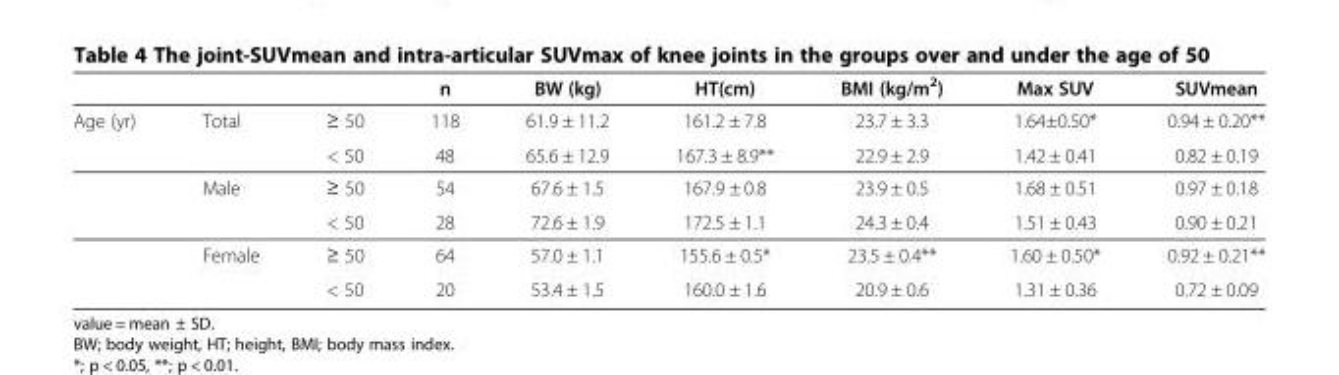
<table><thead><tr><td></td><td></td><td></td><td>n</td><td>BW (kg)</td><td>HT(cm)</td><td>BMI (kg/m<sup>2</sup>)</td><td>Max SUV</td><td>SUVmean</td></tr></thead><tbody><tr><td rowspan="6">Age (yr)</td><td>Total</td><td>≥ 50</td><td>118</td><td>61.9 ± 11.2</td><td>161.2 ± 7.8</td><td>23.7 ± 3.3</td><td>1.64±0.50*</td><td>0.94 ± 0.20**</td></tr><tr><td></td><td>&lt; 50</td><td>48</td><td>65.6 ± 12.9</td><td>167.3 ± 8.9**</td><td>22.9 ± 2.9</td><td>1.42 ± 0.41</td><td>0.82 ± 0.19</td></tr><tr><td>Male</td><td>≥ 50</td><td>54</td><td>67.6 ± 1.5</td><td>167.9 ± 0.8</td><td>23.9 ± 0.5</td><td>1.68 ± 0.51</td><td>0.97 ± 0.18</td></tr><tr><td></td><td>&lt; 50</td><td>28</td><td>72.6 ± 1.9</td><td>172.5 ± 1.1</td><td>24.3 ± 0.4</td><td>1.51 ± 0.43</td><td>0.90 ± 0.21</td></tr><tr><td>Female</td><td>≥ 50</td><td>64</td><td>57.0 ± 1.1</td><td>155.6 ± 0.5*</td><td>23.5 ± 0.4**</td><td>1.60 ± 0.50*</td><td>0.92 ± 0.21**</td></tr><tr><td></td><td>&lt; 50</td><td>20</td><td>53.4 ± 1.5</td><td>160.0 ± 1.6</td><td>20.9 ± 0.6</td><td>1.31 ± 0.36</td><td>0.72 ± 0.09</td></tr></tbody></table>